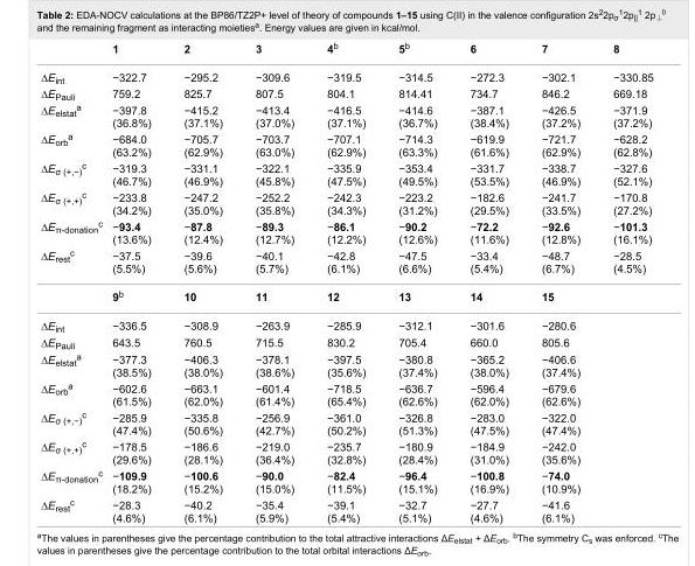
<table><thead><tr><td></td><td>1</td><td>2</td><td>3</td><td>4<sup>b</sup></td><td>5<sup>b</sup></td><td>6</td><td>7</td><td>8</td></tr></thead><tbody><tr><td>∆E<sub>int</sub></td><td>−322.7</td><td>−295.2</td><td>−309.6</td><td>−319.5</td><td>−314.5</td><td>−272.3</td><td>−302.1</td><td>−330.85</td></tr><tr><td>∆E<sub>Pauli</sub></td><td>759.2</td><td>825.7</td><td>807.5</td><td>804.1</td><td>814.41</td><td>734.7</td><td>846.2</td><td>669.18</td></tr><tr><td>∆E<sub>elstat</sub><sup>a</sup></td><td>−397.8 (36.8%)</td><td>−415.2 (37.1%)</td><td>−413.4 (37.0%)</td><td>−416.5 (37.1%)</td><td>−414.6 (36.7%)</td><td>−387.1 (38.4%)</td><td>−426.5 (37.2%)</td><td>−371.9 (37.2%)</td></tr><tr><td>∆E<sub>orb</sub><sup>a</sup></td><td>−684.0 (63.2%)</td><td>−705.7 (62.9%)</td><td>−703.7 (63.0%)</td><td>−707.1 (62.9%)</td><td>−714.3 (63.3%)</td><td>−619.9 (61.6%)</td><td>−721.7 (62.9%)</td><td>−628.2 (62.8%)</td></tr><tr><td>∆E<sub>σ (+,−)</sub><sup>c</sup></td><td>−319.3 (46.7%)</td><td>−331.1 (46.9%)</td><td>−322.1 (45.8%)</td><td>−335.9 (47.5%)</td><td>−353.4 (49.5%)</td><td>−331.7 (53.5%)</td><td>−338.7 (46.9%)</td><td>−327.6 (52.1%)</td></tr><tr><td>∆E<sub>σ (+,+)</sub><sup>c</sup></td><td>−233.8 (34.2%)</td><td>−247.2 (35.0%)</td><td>−252.2 (35.8%)</td><td>−242.3 (34.3%)</td><td>−223.2 (31.2%)</td><td>−182.6 (29.5%)</td><td>−241.7 (33.5%)</td><td>−170.8 (27.2%)</td></tr><tr><td>∆E<sub>π-donation</sub><sup>c</sup></td><td>−93.4 (13.6%)</td><td>−87.8 (12.4%)</td><td>−89.3 (12.7%)</td><td>−86.1 (12.2%)</td><td>−90.2 (12.6%)</td><td>−72.2 (11.6%)</td><td>−92.6 (12.8%)</td><td>−101.3 (16.1%)</td></tr><tr><td rowspan="2">∆E<sub>rest</sub><sup>c</sup></td><td>−37.5 (5.5%)</td><td>−39.6 (5.6%)</td><td>−40.1 (5.7%)</td><td>−42.8 (6.1%)</td><td>−47.5 (6.6%)</td><td>−33.4 (5.4%)</td><td>−48.7 (6.7%)</td><td>−28.5 (4.5%)</td></tr><tr><td>9<sup>b</sup></td><td>10</td><td>11</td><td>12</td><td>13</td><td>14</td><td>15</td><td></td></tr><tr><td>∆E<sub>int</sub></td><td>−336.5</td><td>−308.9</td><td>−263.9</td><td>−285.9</td><td>−312.1</td><td>−301.6</td><td>−280.6</td><td></td></tr><tr><td>∆E<sub>Pauli</sub></td><td>643.5</td><td>760.5</td><td>715.5</td><td>830.2</td><td>705.4</td><td>660.0</td><td>805.6</td><td></td></tr><tr><td>∆E<sub>elstat</sub><sup>a</sup></td><td>−377.3 (38.5%)</td><td>−406.3 (38.0%)</td><td>−378.1 (38.6%)</td><td>−397.5 (35.6%)</td><td>−380.8 (37.4%)</td><td>−365.2 (38.0%)</td><td>−406.6 (37.4%)</td><td></td></tr><tr><td>∆E<sub>orb</sub><sup>a</sup></td><td>−602.6 (61.5%)</td><td>−663.1 (62.0%)</td><td>−601.4 (61.4%)</td><td>−718.5 (65.4%)</td><td>−636.7 (62.6%)</td><td>−596.4 (62.0%)</td><td>−679.6 (62.6%)</td><td></td></tr><tr><td>∆E<sub>σ (+,−)</sub><sup>c</sup></td><td>−285.9 (47.4%)</td><td>−335.8 (50.6%)</td><td>−256.9 (42.7%)</td><td>−361.0 (50.2%)</td><td>−326.8 (51.3%)</td><td>−283.0 (47.5%)</td><td>−322.0 (47.4%)</td><td></td></tr><tr><td>∆E<sub>σ (+,+)</sub><sup>c</sup></td><td>−178.5 (29.6%)</td><td>−186.6 (28.1%)</td><td>−219.0 (36.4%)</td><td>−235.7 (32.8%)</td><td>−180.9 (28.4%)</td><td>−184.9 (31.0%)</td><td>−242.0 (35.6%)</td><td></td></tr><tr><td>∆E<sub>π-donation</sub><sup>c</sup></td><td>−109.9 (18.2%)</td><td>−100.6 (15.2%)</td><td>−90.0 (15.0%)</td><td>−82.4 (11.5%)</td><td>−96.4 (15.1%)</td><td>−100.8 (16.9%)</td><td>−74.0 (10.9%)</td><td></td></tr><tr><td>∆E<sub>rest</sub><sup>c</sup></td><td>−28.3 (4.6%)</td><td>−40.2 (6.1%)</td><td>−35.4 (5.9%)</td><td>−39.1 (5.4%)</td><td>−32.7 (5.1%)</td><td>−27.7 (4.6%)</td><td>−41.6 (6.1%)</td><td></td></tr></tbody></table>